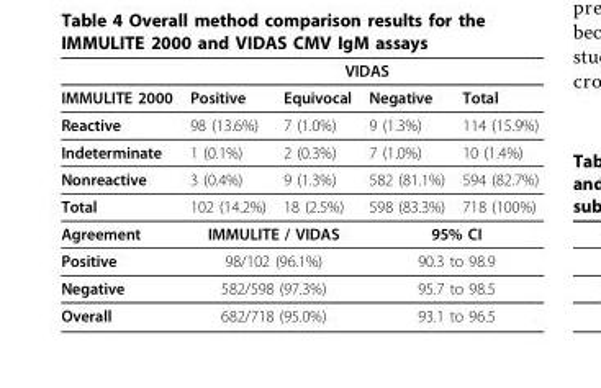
<table><thead><tr><td rowspan="2">IMMULITE 2000</td><td colspan="4">VIDAS</td></tr><tr><td>Positive</td><td>Equivocal</td><td>Negative</td><td>Total</td></tr></thead><tbody><tr><td>Reactive</td><td>98 (13.6%)</td><td>7 (1.0%)</td><td>9 (1.3%)</td><td>114 (15.9%)</td></tr><tr><td>Indeterminate</td><td>1 (0.1%)</td><td>2 (0.3%)</td><td>7 (1.0%)</td><td>10 (1.4%)</td></tr><tr><td>Nonreactive</td><td>3 (0.4%)</td><td>9 (1.3%)</td><td>582 (81.1%)</td><td>594 (82.7%)</td></tr><tr><td>Total</td><td>102 (14.2%)</td><td>18 (2.5%)</td><td>598 (83.3%)</td><td>718 (100%)</td></tr><tr><td>Agreement</td><td colspan="2">IMMULITE / VIDAS</td><td colspan="2">95% CI</td></tr><tr><td>Positive</td><td colspan="2">98/102 (96.1%)</td><td colspan="2">90.3 to 98.9</td></tr><tr><td>Negative</td><td colspan="2">582/598 (97.3%)</td><td colspan="2">95.7 to 98.5</td></tr><tr><td>Overall</td><td colspan="2">682/718 (95.0%)</td><td colspan="2">93.1 to 96.5</td></tr></tbody></table>